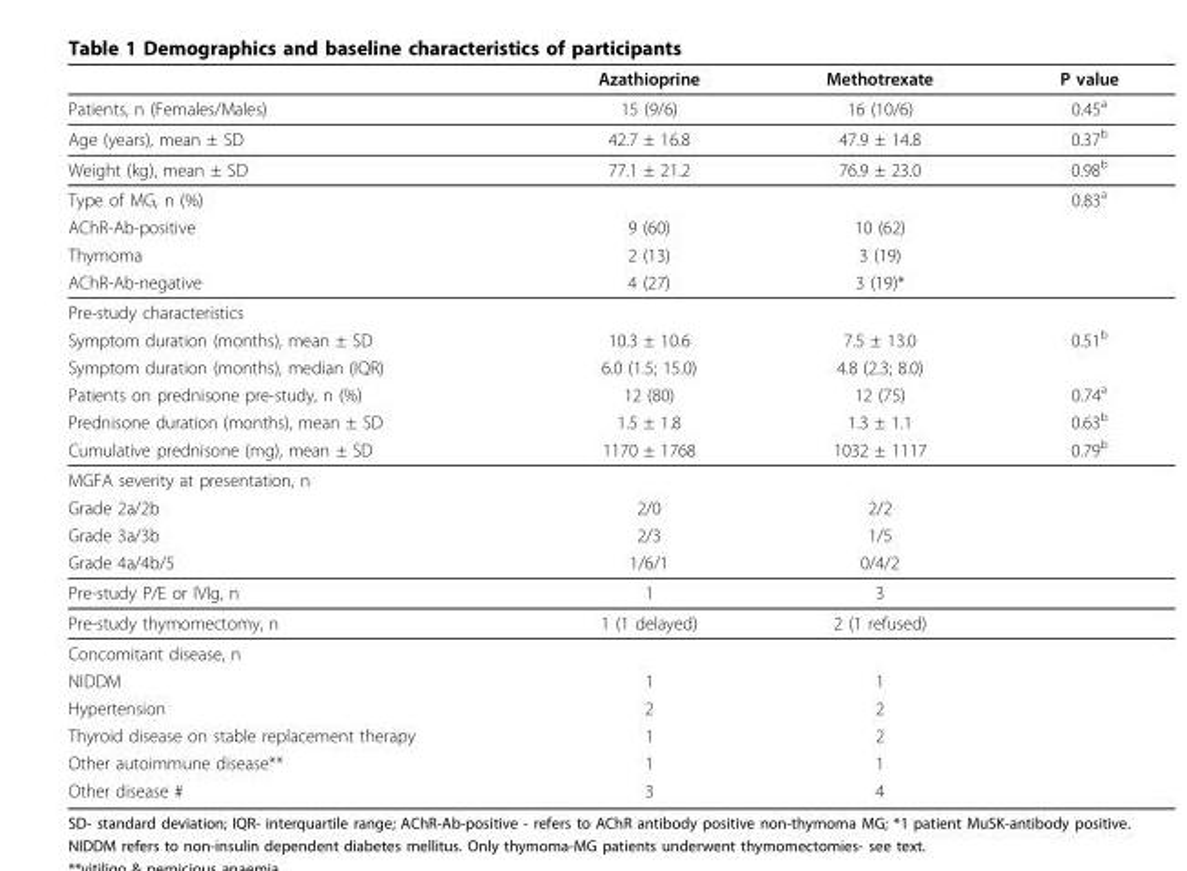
<table><thead><tr><td></td><td>Azathioprine</td><td>Methotrexate</td><td>P value</td></tr></thead><tbody><tr><td>Patients, n (Females/Males)</td><td>15 (9/6)</td><td>16 (10/6)</td><td>0.45<sup>a</sup></td></tr><tr><td>Age (years), mean ± SD</td><td>42.7 ± 16.8</td><td>47.9 ± 14.8</td><td>0.37<sup>b</sup></td></tr><tr><td>Weight (kg), mean ± SD</td><td>77.1 ± 21.2</td><td>76.9 ± 23.0</td><td>0.98<sup>b</sup></td></tr><tr><td>Type of MG, n (%)</td><td></td><td></td><td>0.83<sup>a</sup></td></tr><tr><td>AChR-Ab-positive</td><td>9 (60)</td><td>10 (62)</td><td></td></tr><tr><td>Thymoma</td><td>2 (13)</td><td>3 (19)</td><td></td></tr><tr><td>AChR-Ab-negative</td><td>4 (27)</td><td>3 (19)*</td><td></td></tr><tr><td colspan="4">Pre-study characteristics</td></tr><tr><td>Symptom duration (months), mean ± SD</td><td>10.3 ± 10.6</td><td>7.5 ± 13.0</td><td>0.51<sup>b</sup></td></tr><tr><td>Symptom duration (months), median (IQR)</td><td>6.0 (1.5; 15.0)</td><td>4.8 (2.3; 8.0)</td><td></td></tr><tr><td>Patients on prednisone pre-study, n (%)</td><td>12 (80)</td><td>12 (75)</td><td>0.74<sup>a</sup></td></tr><tr><td>Prednisone duration (months), mean ± SD</td><td>1.5 ± 1.8</td><td>1.3 ± 1.1</td><td>0.63<sup>b</sup></td></tr><tr><td>Cumulative prednisone (mg), mean ± SD</td><td>1170 ± 1768</td><td>1032 ± 1117</td><td>0.79<sup>b</sup></td></tr><tr><td colspan="4">MGFA severity at presentation, n</td></tr><tr><td>Grade 2a/2b</td><td>2/0</td><td>2/2</td><td></td></tr><tr><td>Grade 3a/3b</td><td>2/3</td><td>1/5</td><td></td></tr><tr><td>Grade 4a/4b/5</td><td>1/6/1</td><td>0/4/2</td><td></td></tr><tr><td>Pre-study P/E or IVIg, n</td><td>1</td><td>3</td><td></td></tr><tr><td>Pre-study thymomectomy, n</td><td>1 (1 delayed)</td><td>2 (1 refused)</td><td></td></tr><tr><td colspan="4">Concomitant disease, n</td></tr><tr><td>NIDDM</td><td>1</td><td>1</td><td></td></tr><tr><td>Hypertension</td><td>2</td><td>2</td><td></td></tr><tr><td>Thyroid disease on stable replacement therapy</td><td>1</td><td>2</td><td></td></tr><tr><td>Other autoimmune disease**</td><td>1</td><td>1</td><td></td></tr><tr><td>Other disease #</td><td>3</td><td>4</td><td></td></tr></tbody></table>